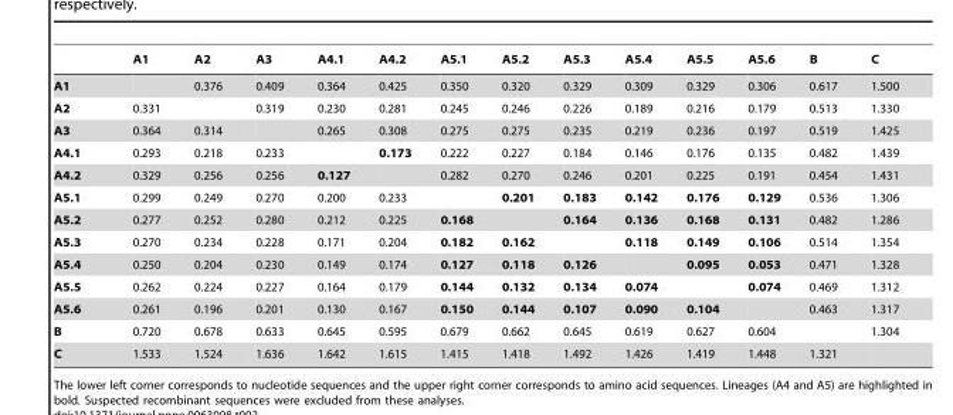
<table><thead><tr><td></td><td>A1</td><td>A2</td><td>A3</td><td>A4.1</td><td>A4.2</td><td>A5.1</td><td>A5.2</td><td>A5.3</td><td>A5.4</td><td>A5.5</td><td>A5.6</td><td>B</td><td>C</td></tr></thead><tbody><tr><td>A1</td><td></td><td>0.376</td><td>0.409</td><td>0.364</td><td>0.425</td><td>0.350</td><td>0.320</td><td>0.329</td><td>0.309</td><td>0.329</td><td>0.306</td><td>0.617</td><td>1.500</td></tr><tr><td>A2</td><td>0.331</td><td></td><td>0.319</td><td>0.230</td><td>0.281</td><td>0.245</td><td>0.246</td><td>0.226</td><td>0.189</td><td>0.216</td><td>0.179</td><td>0.513</td><td>1.330</td></tr><tr><td>A3</td><td>0.364</td><td>0.314</td><td></td><td>0.265</td><td>0.308</td><td>0.275</td><td>0.275</td><td>0.235</td><td>0.219</td><td>0.236</td><td>0.197</td><td>0.519</td><td>1.425</td></tr><tr><td>A4.1</td><td>0.293</td><td>0.218</td><td>0.233</td><td></td><td>0.173</td><td>0.222</td><td>0.227</td><td>0.184</td><td>0.146</td><td>0.176</td><td>0.135</td><td>0.482</td><td>1.439</td></tr><tr><td>A4.2</td><td>0.329</td><td>0.256</td><td>0.256</td><td>0.127</td><td></td><td>0.282</td><td>0.270</td><td>0.246</td><td>0.201</td><td>0.225</td><td>0.191</td><td>0.454</td><td>1.431</td></tr><tr><td>A5.1</td><td>0.299</td><td>0.249</td><td>0.270</td><td>0.200</td><td>0.233</td><td></td><td>0.201</td><td>0.183</td><td>0.142</td><td>0.176</td><td>0.129</td><td>0.536</td><td>1.306</td></tr><tr><td>A5.2</td><td>0.277</td><td>0.252</td><td>0.280</td><td>0.212</td><td>0.225</td><td>0.168</td><td></td><td>0.164</td><td>0.136</td><td>0.168</td><td>0.131</td><td>0.482</td><td>1.286</td></tr><tr><td>A5.3</td><td>0.270</td><td>0.234</td><td>0.228</td><td>0.171</td><td>0.204</td><td>0.182</td><td>0.162</td><td></td><td>0.118</td><td>0.149</td><td>0.106</td><td>0.514</td><td>1.354</td></tr><tr><td>A5.4</td><td>0.250</td><td>0.204</td><td>0.230</td><td>0.149</td><td>0.174</td><td>0.127</td><td>0.118</td><td>0.126</td><td></td><td>0.095</td><td>0.053</td><td>0.471</td><td>1.328</td></tr><tr><td>A5.5</td><td>0.262</td><td>0.224</td><td>0.227</td><td>0.164</td><td>0.179</td><td>0.144</td><td>0.132</td><td>0.134</td><td>0.074</td><td></td><td>0.074</td><td>0.469</td><td>1.312</td></tr><tr><td>A5.6</td><td>0.261</td><td>0.196</td><td>0.201</td><td>0.130</td><td>0.167</td><td>0.150</td><td>0.144</td><td>0.107</td><td>0.090</td><td>0.104</td><td></td><td>0.463</td><td>1.317</td></tr><tr><td>B</td><td>0.720</td><td>0.678</td><td>0.633</td><td>0.645</td><td>0.595</td><td>0.679</td><td>0.662</td><td>0.645</td><td>0.619</td><td>0.627</td><td>0.604</td><td></td><td>1.304</td></tr><tr><td>C</td><td>1.533</td><td>1.524</td><td>1.636</td><td>1.642</td><td>1.615</td><td>1.415</td><td>1.418</td><td>1.492</td><td>1.426</td><td>1.419</td><td>1.448</td><td>1.321</td><td></td></tr></tbody></table>